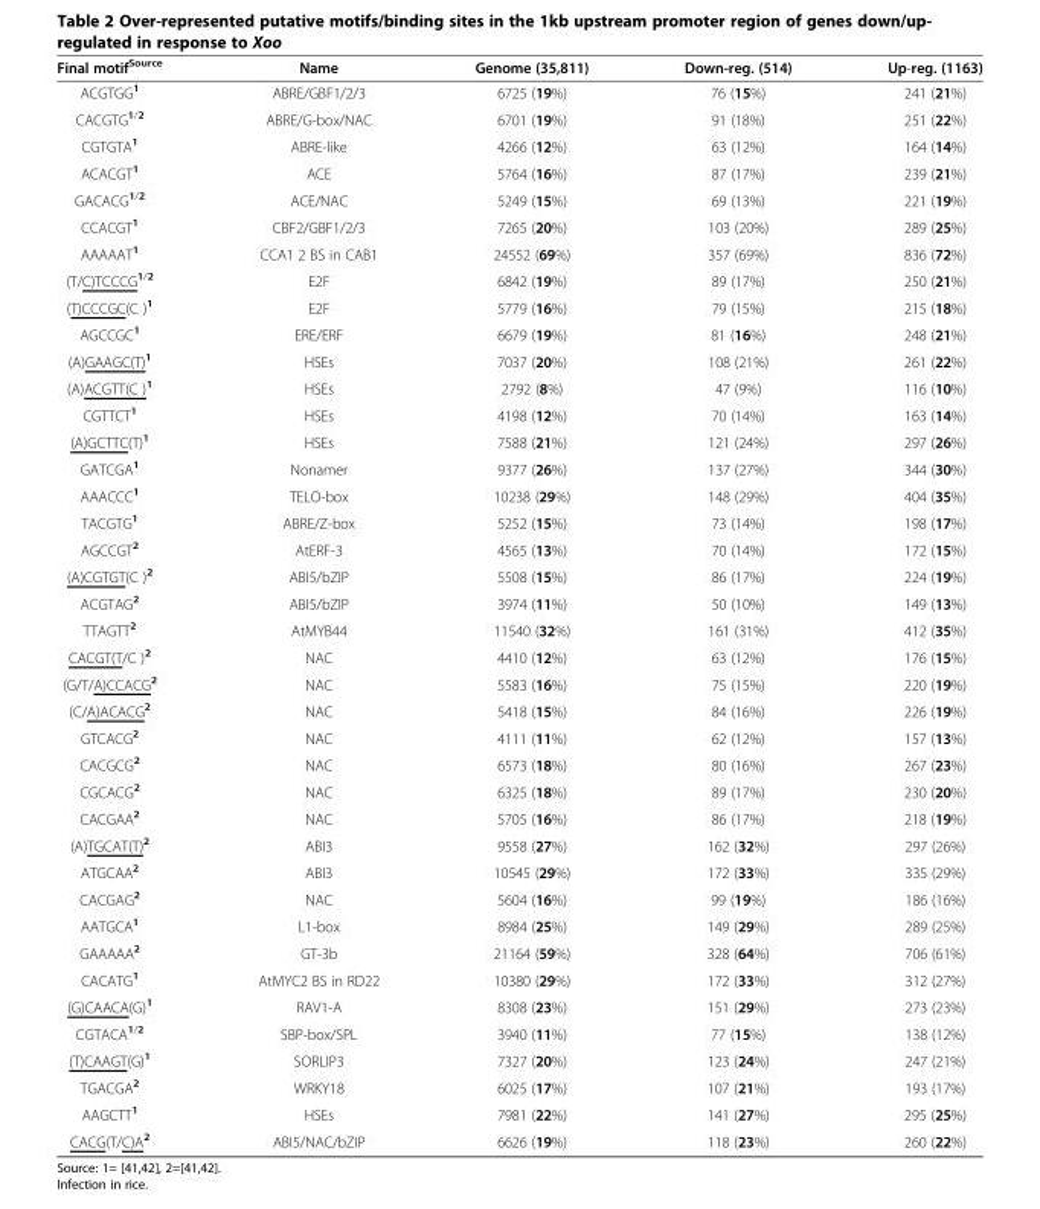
<table><thead><tr><td>Final motif<sup>Source</sup></td><td>Name</td><td>Genome (35,811)</td><td>Down-reg. (514)</td><td>Up-reg. (1163)</td></tr></thead><tbody><tr><td>ACGTGG<sup>1</sup></td><td>ABRE/GBF1/2/3</td><td>6725 (19%)</td><td>76 (15%)</td><td>241 (21%)</td></tr><tr><td>CACGTG<sup>1/2</sup></td><td>ABRE/G-box/NAC</td><td>6701 (19%)</td><td>91 (18%)</td><td>251 (22%)</td></tr><tr><td>CGTGTA<sup>1</sup></td><td>ABRE-like</td><td>4266 (12%)</td><td>63 (12%)</td><td>164 (14%)</td></tr><tr><td>ACACGT<sup>1</sup></td><td>ACE</td><td>5764 (16%)</td><td>87 (17%)</td><td>239 (21%)</td></tr><tr><td>GACACG<sup>1/2</sup></td><td>ACE/NAC</td><td>5249 (15%)</td><td>69 (13%)</td><td>221 (19%)</td></tr><tr><td>CCACGT<sup>1</sup></td><td>CBF2/GBF1/2/3</td><td>7265 (20%)</td><td>103 (20%)</td><td>289 (25%)</td></tr><tr><td>AAAAAT<sup>1</sup></td><td>CCA1 2 BS in CAB1</td><td>24552 (69%)</td><td>357 (69%)</td><td>836 (72%)</td></tr><tr><td>(T/C)TCCCG<sup>1/2</sup></td><td>E2F</td><td>6842 (19%)</td><td>89 (17%)</td><td>250 (21%)</td></tr><tr><td>(T)CCCGC(C )<sup>1</sup></td><td>E2F</td><td>5779 (16%)</td><td>79 (15%)</td><td>215 (18%)</td></tr><tr><td>AGCCGC<sup>1</sup></td><td>ERE/ERF</td><td>6679 (19%)</td><td>81 (16%)</td><td>248 (21%)</td></tr><tr><td>(A)GAAGC(T)<sup>1</sup></td><td>HSEs</td><td>7037 (20%)</td><td>108 (21%)</td><td>261 (22%)</td></tr><tr><td>(A)ACGTT(C )<sup>1</sup></td><td>HSEs</td><td>2792 (8%)</td><td>47 (9%)</td><td>116 (10%)</td></tr><tr><td>CGTTCT<sup>1</sup></td><td>HSEs</td><td>4198 (12%)</td><td>70 (14%)</td><td>163 (14%)</td></tr><tr><td>(A)GCTTC(T)<sup>1</sup></td><td>HSEs</td><td>7588 (21%)</td><td>121 (24%)</td><td>297 (26%)</td></tr><tr><td>GATCGA<sup>1</sup></td><td>Nonamer</td><td>9377 (26%)</td><td>137 (27%)</td><td>344 (30%)</td></tr><tr><td>AAACCC<sup>1</sup></td><td>TELO-box</td><td>10238 (29%)</td><td>148 (29%)</td><td>404 (35%)</td></tr><tr><td>TACGTG<sup>1</sup></td><td>ABRE/Z-box</td><td>5252 (15%)</td><td>73 (14%)</td><td>198 (17%)</td></tr><tr><td>AGCCGT<sup>2</sup></td><td>AtERF-3</td><td>4565 (13%)</td><td>70 (14%)</td><td>172 (15%)</td></tr><tr><td>(A)CGTGT(C )<sup>2</sup></td><td>ABI5/bZIP</td><td>5508 (15%)</td><td>86 (17%)</td><td>224 (19%)</td></tr><tr><td>ACGTAG<sup>2</sup></td><td>ABI5/bZIP</td><td>3974 (11%)</td><td>50 (10%)</td><td>149 (13%)</td></tr><tr><td>TTAGTT<sup>2</sup></td><td>AtMYB44</td><td>11540 (32%)</td><td>161 (31%)</td><td>412 (35%)</td></tr><tr><td>CACGT(T/C )<sup>2</sup></td><td>NAC</td><td>4410 (12%)</td><td>63 (12%)</td><td>176 (15%)</td></tr><tr><td>(G/T/A)CCACG<sup>2</sup></td><td>NAC</td><td>5583 (16%)</td><td>75 (15%)</td><td>220 (19%)</td></tr><tr><td>(C/A)ACACG<sup>2</sup></td><td>NAC</td><td>5418 (15%)</td><td>84 (16%)</td><td>226 (19%)</td></tr><tr><td>GTCACG<sup>2</sup></td><td>NAC</td><td>4111 (11%)</td><td>62 (12%)</td><td>157 (13%)</td></tr><tr><td>CACGCG<sup>2</sup></td><td>NAC</td><td>6573 (18%)</td><td>80 (16%)</td><td>267 (23%)</td></tr><tr><td>CGCACG<sup>2</sup></td><td>NAC</td><td>6325 (18%)</td><td>89 (17%)</td><td>230 (20%)</td></tr><tr><td>CACGAA<sup>2</sup></td><td>NAC</td><td>5705 (16%)</td><td>86 (17%)</td><td>218 (19%)</td></tr><tr><td>(A)TGCAT(T)<sup>2</sup></td><td>ABI3</td><td>9558 (27%)</td><td>162 (32%)</td><td>297 (26%)</td></tr><tr><td>ATGCAA<sup>2</sup></td><td>ABI3</td><td>10545 (29%)</td><td>172 (33%)</td><td>335 (29%)</td></tr><tr><td>CACGAG<sup>2</sup></td><td>NAC</td><td>5604 (16%)</td><td>99 (19%)</td><td>186 (16%)</td></tr><tr><td>AATGCA<sup>1</sup></td><td>L1-box</td><td>8984 (25%)</td><td>149 (29%)</td><td>289 (25%)</td></tr><tr><td>GAAAAA<sup>2</sup></td><td>GT-3b</td><td>21164 (59%)</td><td>328 (64%)</td><td>706 (61%)</td></tr><tr><td>CACATG<sup>1</sup></td><td>AtMYC2 BS in RD22</td><td>10380 (29%)</td><td>172 (33%)</td><td>312 (27%)</td></tr><tr><td>(G)CAACA(G)<sup>1</sup></td><td>RAV1-A</td><td>8308 (23%)</td><td>151 (29%)</td><td>273 (23%)</td></tr><tr><td>CGTACA<sup>1/2</sup></td><td>SBP-box/SPL</td><td>3940 (11%)</td><td>77 (15%)</td><td>138 (12%)</td></tr><tr><td>(T)CAAGT(G)<sup>1</sup></td><td>SORLIP3</td><td>7327 (20%)</td><td>123 (24%)</td><td>247 (21%)</td></tr><tr><td>TGACGA<sup>2</sup></td><td>WRKY18</td><td>6025 (17%)</td><td>107 (21%)</td><td>193 (17%)</td></tr><tr><td>AAGCTT<sup>1</sup></td><td>HSEs</td><td>7981 (22%)</td><td>141 (27%)</td><td>295 (25%)</td></tr><tr><td>CACG(T/C)A<sup>2</sup></td><td>ABI5/NAC/bZIP</td><td>6626 (19%)</td><td>118 (23%)</td><td>260 (22%)</td></tr></tbody></table>